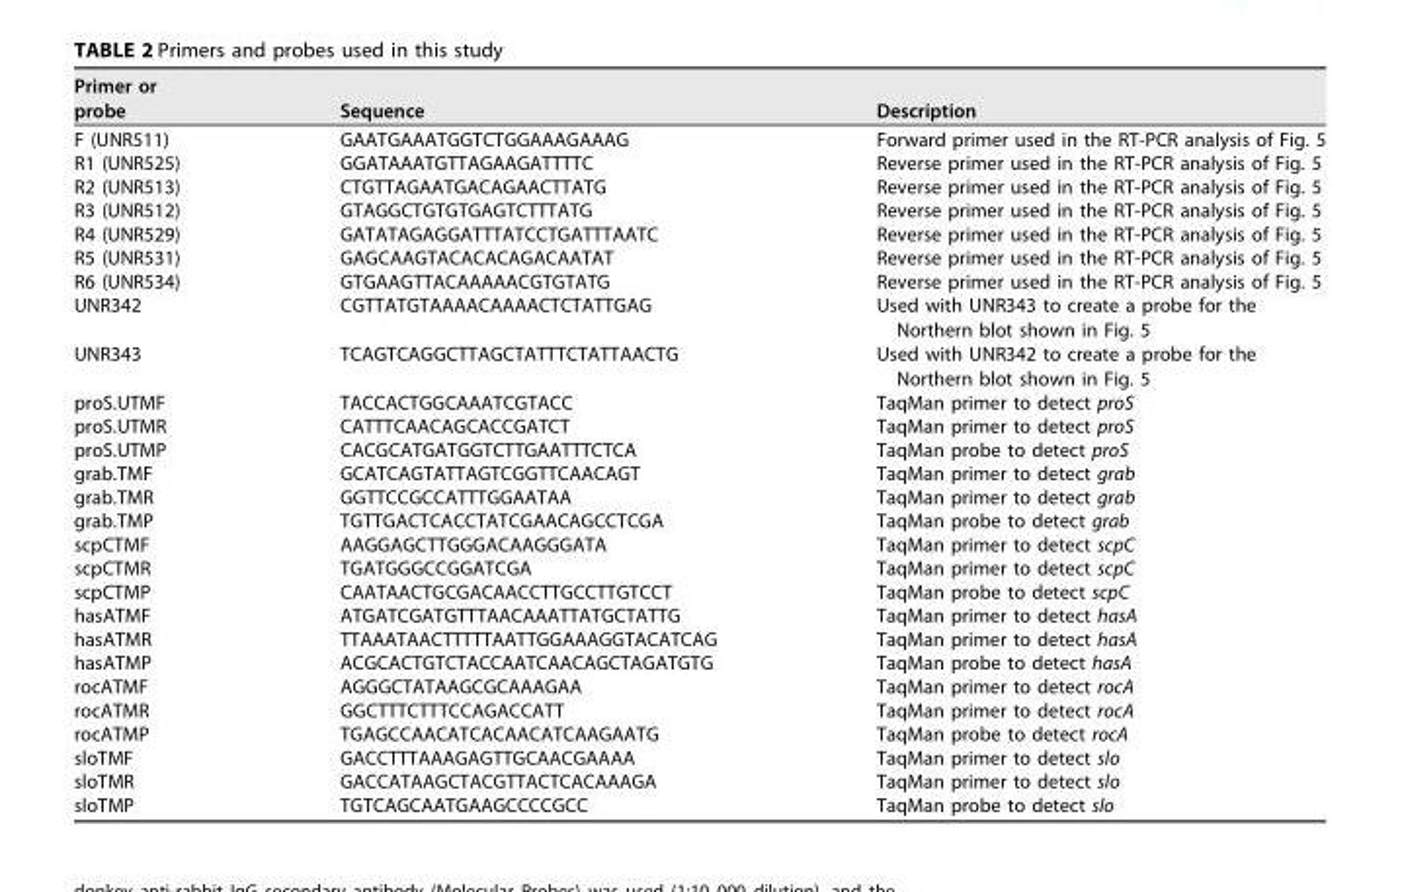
<table><thead><tr><td>Primer or probe</td><td>Sequence</td><td>Description</td></tr></thead><tbody><tr><td>F (UNR511)</td><td>GAATGAAATGGTCTGGAAAGAAAG</td><td>Forward primer used in the RT-PCR analysis of Fig. 5</td></tr><tr><td>R1 (UNR525)</td><td>GGATAAATGTTAGAAGATTTTC</td><td>Reverse primer used in the RT-PCR analysis of Fig. 5</td></tr><tr><td>R2 (UNR513)</td><td>CTGTTAGAATGACAGAACTTATG</td><td>Reverse primer used in the RT-PCR analysis of Fig. 5</td></tr><tr><td>R3 (UNR512)</td><td>GTAGGCTGTGTGAGTCTTTATG</td><td>Reverse primer used in the RT-PCR analysis of Fig. 5</td></tr><tr><td>R4 (UNR529)</td><td>GATATAGAGGATTTATCCTGATTTAATC</td><td>Reverse primer used in the RT-PCR analysis of Fig. 5</td></tr><tr><td>R5 (UNR531)</td><td>GAGCAAGTACACACAGACAATAT</td><td>Reverse primer used in the RT-PCR analysis of Fig. 5</td></tr><tr><td>R6 (UNR534)</td><td>GTGAAGTTACAAAAACGTGTATG</td><td>Reverse primer used in the RT-PCR analysis of Fig. 5</td></tr><tr><td>UNR342</td><td>CGTTATGTAAAACAAAACTCTATTGAG</td><td>Used with UNR343 to create a probe for the Northern blot shown in Fig. 5</td></tr><tr><td>UNR343</td><td>TCAGTCAGGCTTAGCTATTTCTATTAACTG</td><td>Used with UNR342 to create a probe for the Northern blot shown in Fig. 5</td></tr><tr><td>proS.UTMF</td><td>TACCACTGGCAAATCGTACC</td><td>TaqMan primer to detect proS</td></tr><tr><td>proS.UTMR</td><td>CATTTCAACAGCACCGATCT</td><td>TaqMan primer to detect proS</td></tr><tr><td>proS.UTMP</td><td>CACGCATGATGGTCTTGAATTTCTCA</td><td>TaqMan probe to detect proS</td></tr><tr><td>grab.TMF</td><td>GCATCAGTATTAGTCGGTTCAACAGT</td><td>TaqMan primer to detect grab</td></tr><tr><td>grab.TMR</td><td>GGTTCCGCCATTTGGAATAA</td><td>TaqMan primer to detect grab</td></tr><tr><td>grab.TMP</td><td>TGTTGACTCACCTATCGAACAGCCTCGA</td><td>TaqMan probe to detect grab</td></tr><tr><td>scpCTMF</td><td>AAGGAGCTTGGGACAAGGGATA</td><td>TaqMan primer to detect scpC</td></tr><tr><td>scpCTMR</td><td>TGATGGGCCGGATCGA</td><td>TaqMan primer to detect scpC</td></tr><tr><td>scpCTMP</td><td>CAATAACTGCGACAACCTTGCCTTGTCCT</td><td>TaqMan probe to detect scpC</td></tr><tr><td>hasATMF</td><td>ATGATCGATGTTTAACAAATTATGCTATTG</td><td>TaqMan primer to detect hasA</td></tr><tr><td>hasATMR</td><td>TTAAATAACTTTTTAATTGGAAAGGTACATCAG</td><td>TaqMan primer to detect hasA</td></tr><tr><td>hasATMP</td><td>ACGCACTGTCTACCAATCAACAGCTAGATGTG</td><td>TaqMan probe to detect hasA</td></tr><tr><td>rocATMF</td><td>AGGGCTATAAGCGCAAAGAA</td><td>TaqMan primer to detect rocA</td></tr><tr><td>rocATMR</td><td>GGCTTTCTTTCCAGACCATT</td><td>TaqMan primer to detect rocA</td></tr><tr><td>rocATMP</td><td>TGAGCCAACATCACAACATCAAGAATG</td><td>TaqMan probe to detect rocA</td></tr><tr><td>sloTMF</td><td>GACCTTTAAAGAGTTGCAACGAAAA</td><td>TaqMan primer to detect slo</td></tr><tr><td>sloTMR</td><td>GACCATAAGCTACGTTACTCACAAAGA</td><td>TaqMan primer to detect slo</td></tr><tr><td>sloTMP</td><td>TGTCAGCAATGAAGCCCCGCC</td><td>TaqMan probe to detect slo</td></tr></tbody></table>